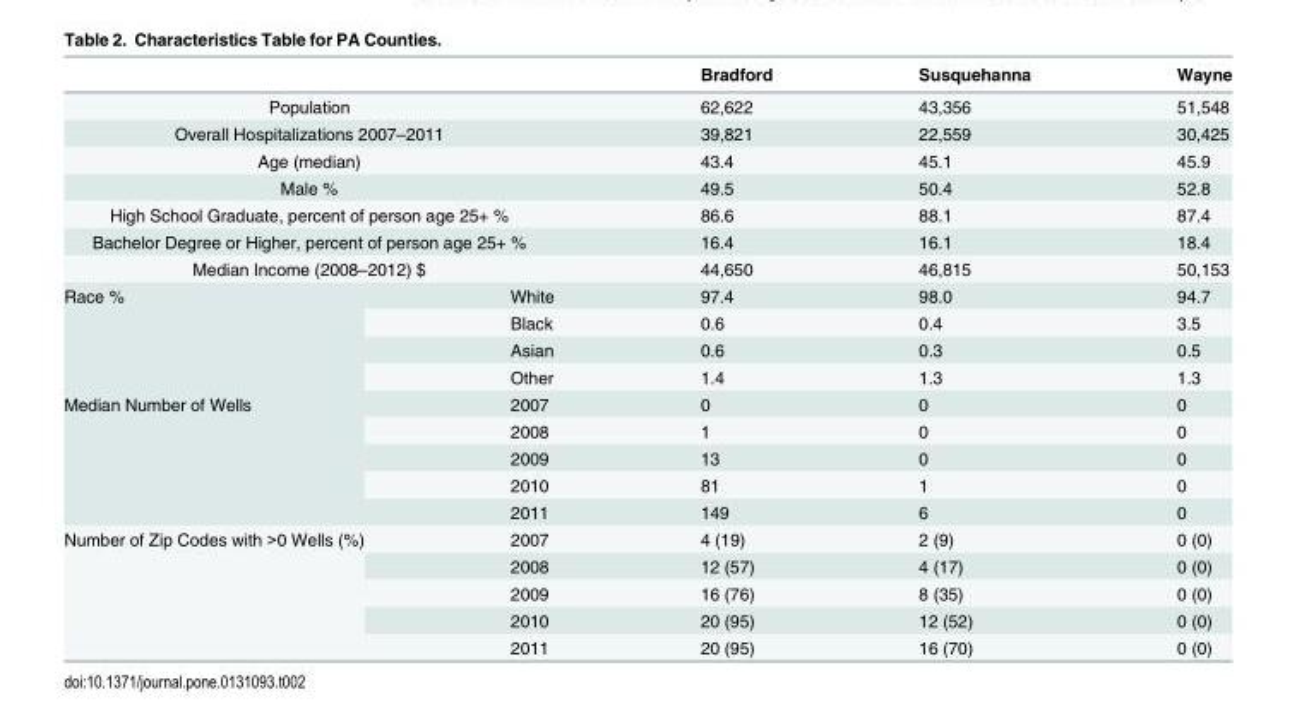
<table><thead><tr><td></td><td></td><td>Bradford</td><td>Susquehanna</td><td>Wayne</td></tr></thead><tbody><tr><td colspan="2">Population</td><td>62,622</td><td>43,356</td><td>51,548</td></tr><tr><td colspan="2">Overall Hospitalizations 2007–2011</td><td>39,821</td><td>22,559</td><td>30,425</td></tr><tr><td colspan="2">Age (median)</td><td>43.4</td><td>45.1</td><td>45.9</td></tr><tr><td colspan="2">Male %</td><td>49.5</td><td>50.4</td><td>52.8</td></tr><tr><td colspan="2">High School Graduate, percent of person age 25+ %</td><td>86.6</td><td>88.1</td><td>87.4</td></tr><tr><td colspan="2">Bachelor Degree or Higher, percent of person age 25+ %</td><td>16.4</td><td>16.1</td><td>18.4</td></tr><tr><td colspan="2">Median Income (2008–2012) $</td><td>44,650</td><td>46,815</td><td>50,153</td></tr><tr><td rowspan="4">Race %</td><td>White</td><td>97.4</td><td>98.0</td><td>94.7</td></tr><tr><td>Black</td><td>0.6</td><td>0.4</td><td>3.5</td></tr><tr><td>Asian</td><td>0.6</td><td>0.3</td><td>0.5</td></tr><tr><td>Other</td><td>1.4</td><td>1.3</td><td>1.3</td></tr><tr><td rowspan="5">Median Number of Wells</td><td>2007</td><td>0</td><td>0</td><td>0</td></tr><tr><td>2008</td><td>1</td><td>0</td><td>0</td></tr><tr><td>2009</td><td>13</td><td>0</td><td>0</td></tr><tr><td>2010</td><td>81</td><td>1</td><td>0</td></tr><tr><td>2011</td><td>149</td><td>6</td><td>0</td></tr><tr><td rowspan="5">Number of Zip Codes with &gt;0 Wells (%)</td><td>2007</td><td>4 (19)</td><td>2 (9)</td><td>0 (0)</td></tr><tr><td>2008</td><td>12 (57)</td><td>4 (17)</td><td>0 (0)</td></tr><tr><td>2009</td><td>16 (76)</td><td>8 (35)</td><td>0 (0)</td></tr><tr><td>2010</td><td>20 (95)</td><td>12 (52)</td><td>0 (0)</td></tr><tr><td>2011</td><td>20 (95)</td><td>16 (70)</td><td>0 (0)</td></tr></tbody></table>